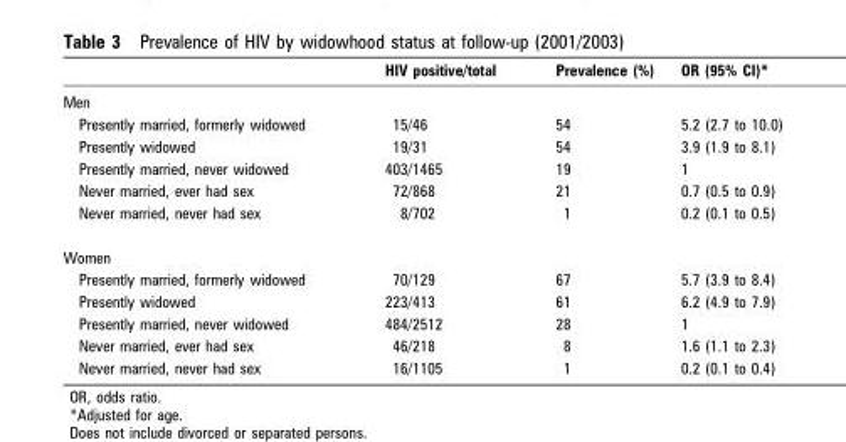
<table><thead><tr><td></td><td>HIV positive/total</td><td>Prevalence (%)</td><td>OR (95% CI)*</td></tr></thead><tbody><tr><td colspan="4">Men</td></tr><tr><td>Presently married, formerly widowed</td><td>15/46</td><td>54</td><td>5.2 (2.7 to 10.0)</td></tr><tr><td>Presently widowed</td><td>19/31</td><td>54</td><td>3.9 (1.9 to 8.1)</td></tr><tr><td>Presently married, never widowed</td><td>403/1465</td><td>19</td><td>1</td></tr><tr><td>Never married, ever had sex</td><td>72/868</td><td>21</td><td>0.7 (0.5 to 0.9)</td></tr><tr><td>Never married, never had sex</td><td>8/702</td><td>1</td><td>0.2 (0.1 to 0.5)</td></tr><tr><td colspan="4">Women</td></tr><tr><td>Presently married, formerly widowed</td><td>70/129</td><td>67</td><td>5.7 (3.9 to 8.4)</td></tr><tr><td>Presently widowed</td><td>223/413</td><td>61</td><td>6.2 (4.9 to 7.9)</td></tr><tr><td>Presently married, never widowed</td><td>484/2512</td><td>28</td><td>1</td></tr><tr><td>Never married, ever had sex</td><td>46/218</td><td>8</td><td>1.6 (1.1 to 2.3)</td></tr><tr><td>Never married, never had sex</td><td>16/1105</td><td>1</td><td>0.2 (0.1 to 0.4)</td></tr></tbody></table>